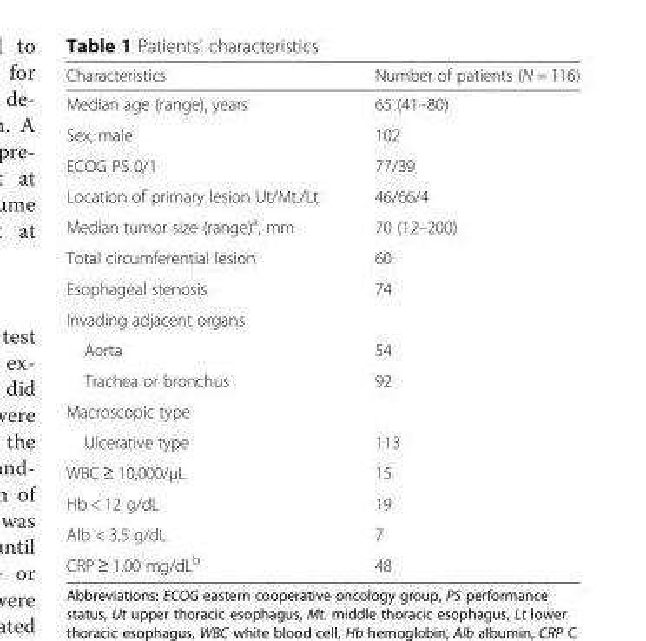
<table><thead><tr><td>Characteristics</td><td>Number of patients (N = 116)</td></tr></thead><tbody><tr><td>Median age (range), years</td><td>65 (41–80)</td></tr><tr><td>Sex, male</td><td>102</td></tr><tr><td>ECOG PS 0/1</td><td>77/39</td></tr><tr><td>Location of primary lesion Ut/Mt./Lt</td><td>46/66/4</td></tr><tr><td>Median tumor size (range)<sup>a</sup>, mm</td><td>70 (12–200)</td></tr><tr><td>Total circumferential lesion</td><td>60</td></tr><tr><td>Esophageal stenosis</td><td>74</td></tr><tr><td colspan="2">Invading adjacent organs</td></tr><tr><td>Aorta</td><td>54</td></tr><tr><td>Trachea or bronchus</td><td>92</td></tr><tr><td colspan="2">Macroscopic type</td></tr><tr><td>Ulcerative type</td><td>113</td></tr><tr><td>WBC ≥ 10,000/μL</td><td>15</td></tr><tr><td>Hb &lt; 12 g/dL</td><td>19</td></tr><tr><td>Alb &lt; 3.5 g/dL</td><td>7</td></tr><tr><td>CRP ≥ 1.00 mg/dL<sup>b</sup></td><td>48</td></tr></tbody></table>